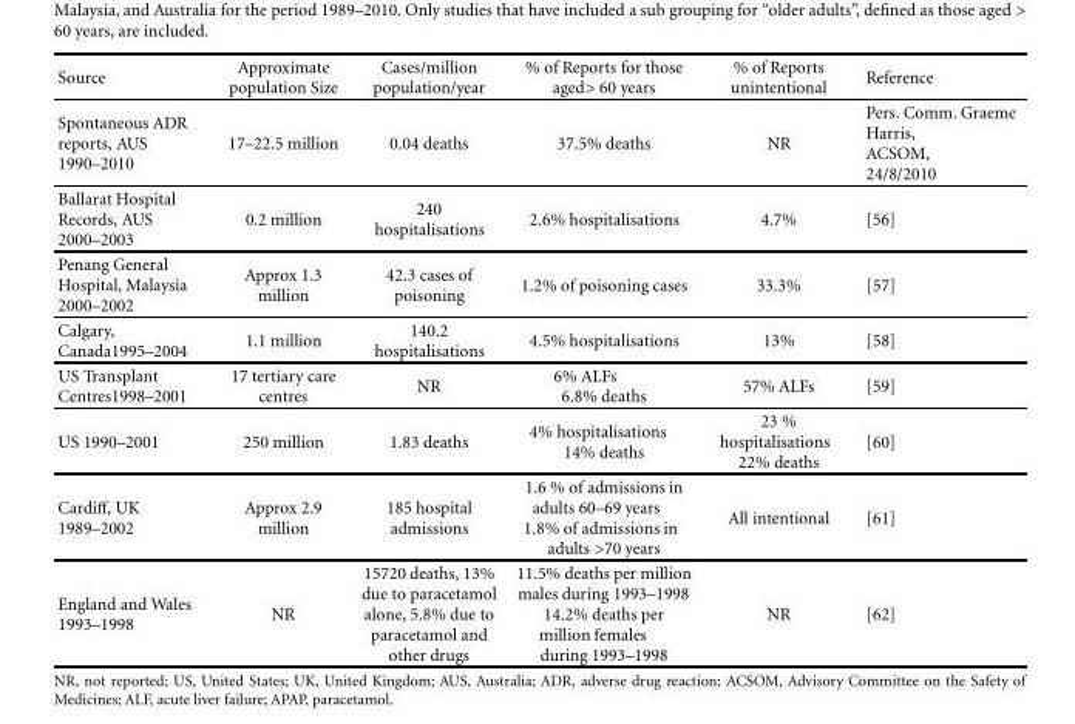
<table><thead><tr><td>Source</td><td>Approximate population Size</td><td>Cases/million population/year</td><td>% of Reports for those aged&gt; 60 years</td><td>% of Reports unintentional</td><td>Reference</td></tr></thead><tbody><tr><td>Spontaneous ADR reports, AUS 1990–2010</td><td>17–22.5 million</td><td>0.04 deaths</td><td>37.5% deaths</td><td>NR</td><td>Pers. Comm. Graeme Harris, ACSOM, 24/8/2010</td></tr><tr><td>Ballarat Hospital Records, AUS 2000–2003</td><td>0.2 million</td><td>240 hospitalisations</td><td>2.6% hospitalisations</td><td>4.7%</td><td>[56]</td></tr><tr><td>Penang General Hospital, Malaysia 2000–2002</td><td>Approx 1.3 million</td><td>42.3 cases of poisoning</td><td>1.2% of poisoning cases</td><td>33.3%</td><td>[57]</td></tr><tr><td>Calgary, Canada1995–2004</td><td>1.1 million</td><td>140.2 hospitalisations</td><td>4.5% hospitalisations</td><td>13%</td><td>[58]</td></tr><tr><td>US Transplant Centres1998–2001</td><td>17 tertiary care centres</td><td>NR</td><td>6% ALFs 6.8% deaths</td><td>57% ALFs</td><td>[59]</td></tr><tr><td>US 1990–2001</td><td>250 million</td><td>1.83 deaths</td><td>4% hospitalisations 14% deaths</td><td>23 % hospitalisations 22% deaths</td><td>[60]</td></tr><tr><td>Cardiff, UK 1989–2002</td><td>Approx 2.9 million</td><td>185 hospital admissions</td><td>1.6 % of admissions in adults 60–69 years 1.8% of admissions in adults &gt;70 years</td><td>All intentional</td><td>[61]</td></tr><tr><td>England and Wales 1993–1998</td><td>NR</td><td>15720 deaths, 13% due to paracetamol alone, 5.8% due to paracetamol and other drugs</td><td>11.5% deaths per million males during 1993–1998 14.2% deaths per million females during 1993–1998</td><td>NR</td><td>[62]</td></tr></tbody></table>